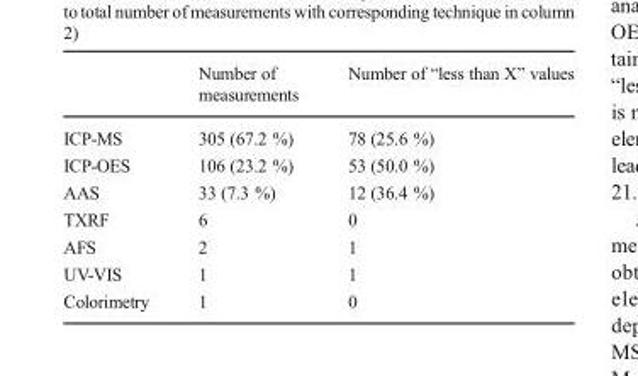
<table><thead><tr><td></td><td>Number of measurements</td><td>Number of “less than X” values</td></tr></thead><tbody><tr><td>ICP-MS</td><td>305 (67.2 %)</td><td>78 (25.6 %)</td></tr><tr><td>ICP-OES</td><td>106 (23.2 %)</td><td>53 (50.0 %)</td></tr><tr><td>AAS</td><td>33 (7.3 %)</td><td>12 (36.4 %)</td></tr><tr><td>TXRF</td><td>6</td><td>0</td></tr><tr><td>AFS</td><td>2</td><td>1</td></tr><tr><td>UV-VIS</td><td>1</td><td>1</td></tr><tr><td>Colorimetry</td><td>1</td><td>0</td></tr></tbody></table>